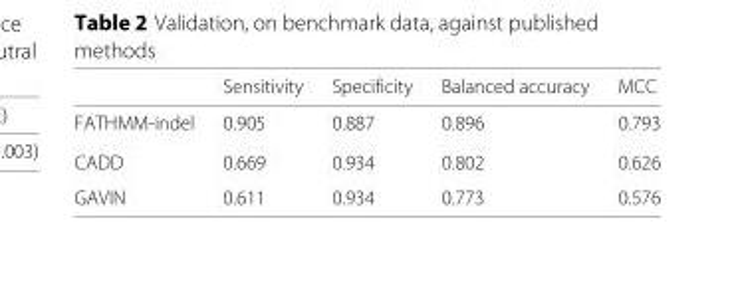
<table><thead><tr><td></td><td>Sensitivity</td><td>Specificity</td><td>Balanced accuracy</td><td>MCC</td></tr></thead><tbody><tr><td>FATHMM-indel</td><td>0.905</td><td>0.887</td><td>0.896</td><td>0.793</td></tr><tr><td>CADD</td><td>0.669</td><td>0.934</td><td>0.802</td><td>0.626</td></tr><tr><td>GAVIN</td><td>0.611</td><td>0.934</td><td>0.773</td><td>0.576</td></tr></tbody></table>